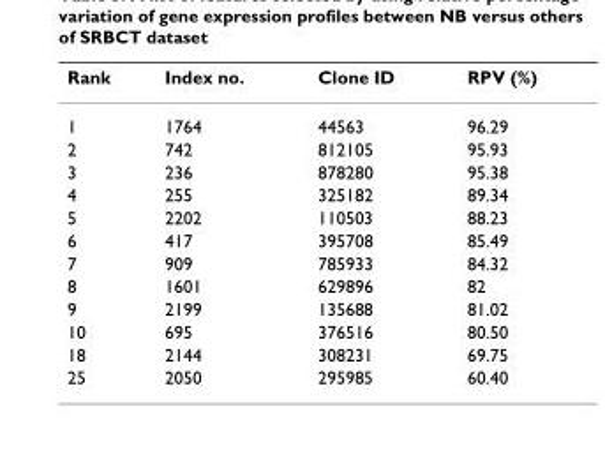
<table><thead><tr><td>Rank</td><td>Index no.</td><td>Clone ID</td><td>RPV (%)</td></tr></thead><tbody><tr><td>1</td><td>1764</td><td>44563</td><td>96.29</td></tr><tr><td>2</td><td>742</td><td>812105</td><td>95.93</td></tr><tr><td>3</td><td>236</td><td>878280</td><td>95.38</td></tr><tr><td>4</td><td>255</td><td>325182</td><td>89.34</td></tr><tr><td>5</td><td>2202</td><td>110503</td><td>88.23</td></tr><tr><td>6</td><td>417</td><td>395708</td><td>85.49</td></tr><tr><td>7</td><td>909</td><td>785933</td><td>84.32</td></tr><tr><td>8</td><td>1601</td><td>629896</td><td>82</td></tr><tr><td>9</td><td>2199</td><td>135688</td><td>81.02</td></tr><tr><td>10</td><td>695</td><td>376516</td><td>80.50</td></tr><tr><td>18</td><td>2144</td><td>308231</td><td>69.75</td></tr><tr><td>25</td><td>2050</td><td>295985</td><td>60.40</td></tr></tbody></table>